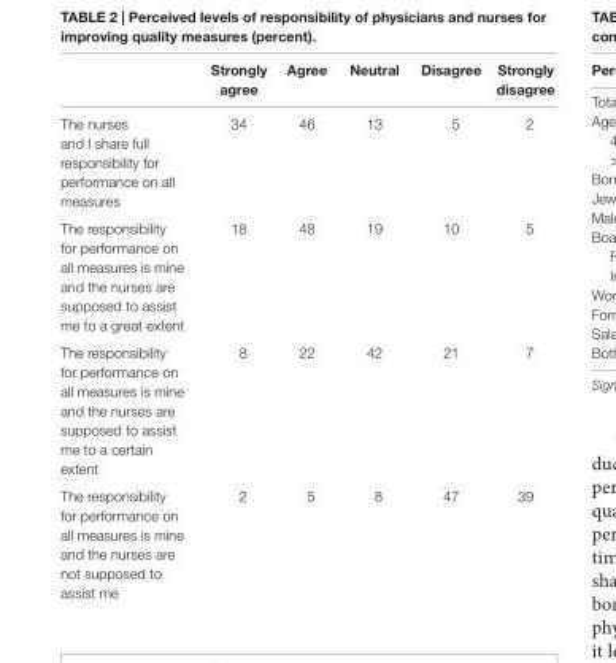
<table><thead><tr><td></td><td>strongly agree</td><td>agree</td><td>neutral</td><td>Disagree</td><td>strongly disagree</td></tr></thead><tbody><tr><td>The nurses and I share full responsibility for performance on all measures</td><td>34</td><td>46</td><td>13</td><td>5</td><td>2</td></tr><tr><td>The responsibility for performance on all measures is mine and the nurses are supposed to assist me to a great extent</td><td>18</td><td>48</td><td>19</td><td>10</td><td>5</td></tr><tr><td>The responsibility for performance on all measures is mine and the nurses are supposed to assist me to a certain extent</td><td>8</td><td>22</td><td>42</td><td>21</td><td>7</td></tr><tr><td>The responsibility for performance on all measures is mine and the nurses are not supposed to assist me</td><td>2</td><td>5</td><td>8</td><td>47</td><td>39</td></tr></tbody></table>